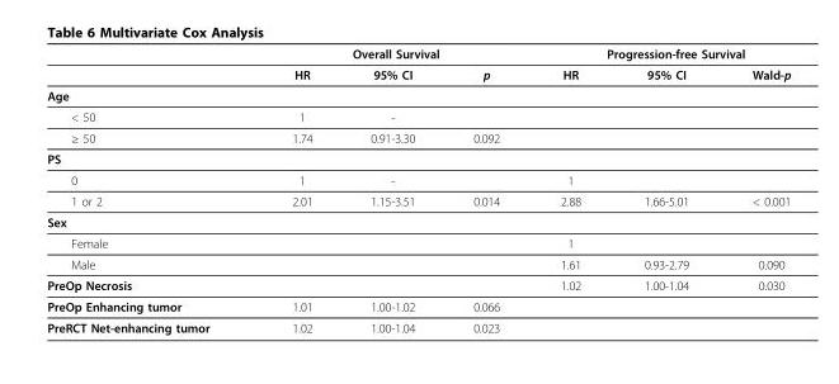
<table><thead><tr><td rowspan="2"></td><td colspan="3">Overall Survival</td><td colspan="3">Progression-free Survival</td></tr><tr><td>HR</td><td>95% CI</td><td>p</td><td>HR</td><td>95% CI</td><td>Wald-p</td></tr></thead><tbody><tr><td colspan="7">Age</td></tr><tr><td>&lt; 50</td><td>1</td><td>-</td><td></td><td></td><td></td><td></td></tr><tr><td>≥ 50</td><td>1.74</td><td>0.91-3.30</td><td>0.092</td><td></td><td></td><td></td></tr><tr><td colspan="7">PS</td></tr><tr><td>0</td><td>1</td><td>-</td><td></td><td>1</td><td></td><td></td></tr><tr><td>1 or 2</td><td>2.01</td><td>1.15-3.51</td><td>0.014</td><td>2.88</td><td>1.66-5.01</td><td>&lt; 0.001</td></tr><tr><td colspan="7">Sex</td></tr><tr><td>Female</td><td></td><td></td><td></td><td>1</td><td></td><td></td></tr><tr><td>Male</td><td></td><td></td><td></td><td>1.61</td><td>0.93-2.79</td><td>0.090</td></tr><tr><td>PreOp Necrosis</td><td></td><td></td><td></td><td>1.02</td><td>1.00-1.04</td><td>0.030</td></tr><tr><td>PreOp Enhancing tumor</td><td>1.01</td><td>1.00-1.02</td><td>0.066</td><td></td><td></td><td></td></tr><tr><td>PreRCT Net-enhancing tumor</td><td>1.02</td><td>1.00-1.04</td><td>0.023</td><td></td><td></td><td></td></tr></tbody></table>